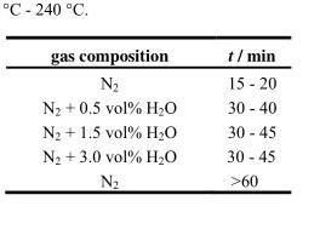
<table><thead><tr><td>gas composition</td><td>t / min</td></tr></thead><tbody><tr><td>N<sub>2</sub></td><td>15 - 20</td></tr><tr><td>N<sub>2</sub> + 0.5 vol% H<sub>2</sub>O</td><td>30 - 40</td></tr><tr><td>N<sub>2</sub> + 1.5 vol% H<sub>2</sub>O</td><td>30 - 45</td></tr><tr><td>N<sub>2</sub> + 3.0 vol% H<sub>2</sub>O</td><td>30 - 45</td></tr><tr><td>N<sub>2</sub></td><td>&gt;60</td></tr></tbody></table>